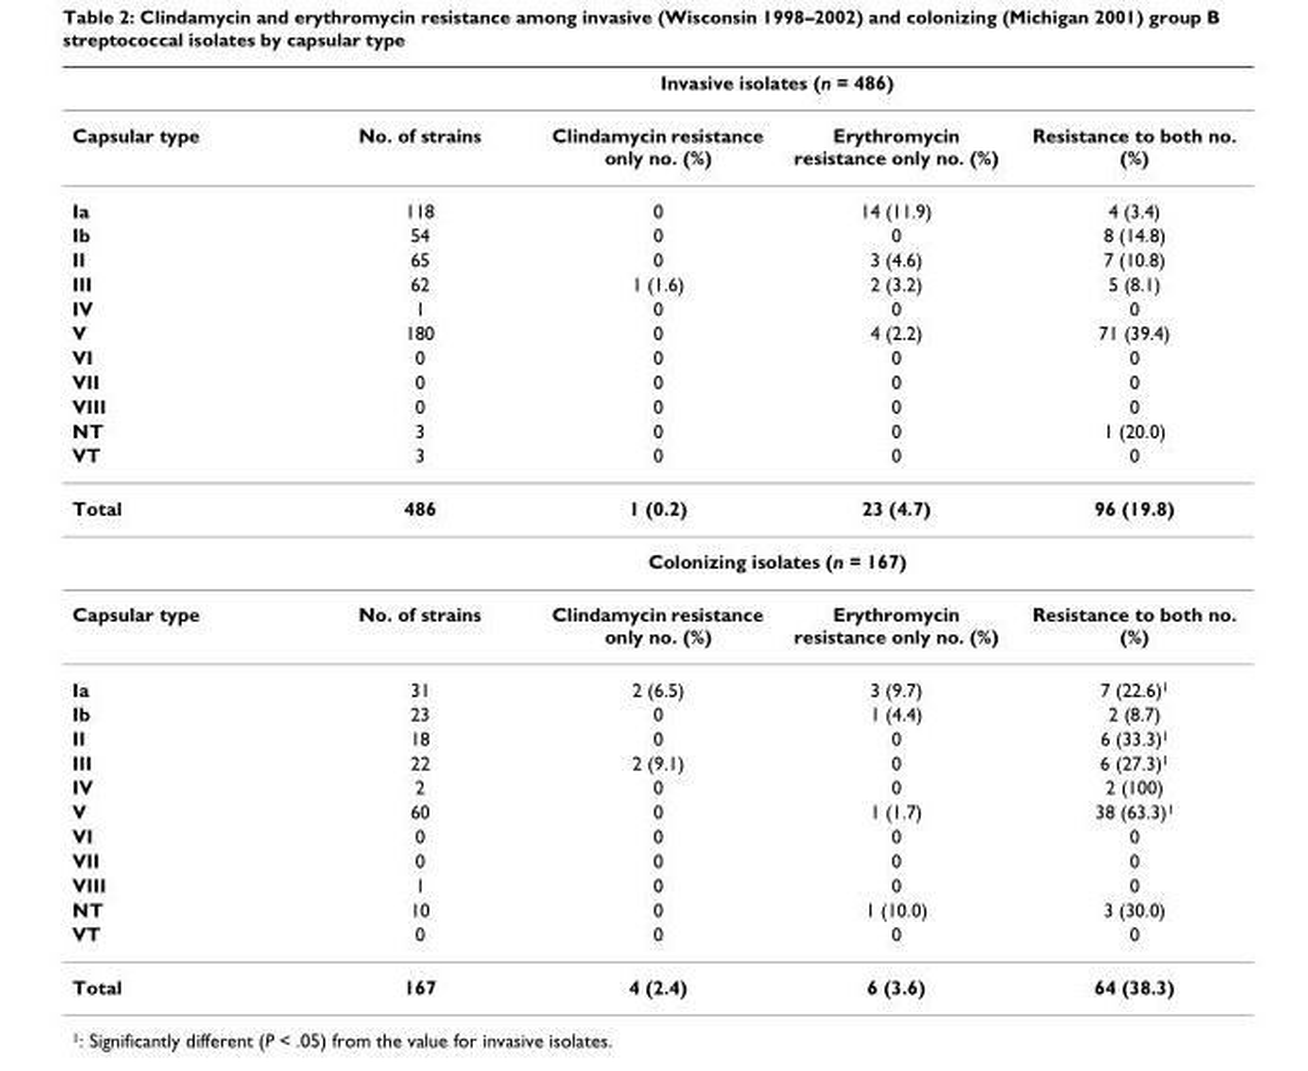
<table><thead><tr><td rowspan="2">Capsular type</td><td colspan="4">Invasive isolates (n = 486)</td></tr><tr><td>No. of strains</td><td>Clindamycin resistance only no. (%)</td><td>Erythromycin resistance only no. (%)</td><td>Resistance to both no. (%)</td></tr></thead><tbody><tr><td>Ia</td><td>118</td><td>0</td><td>14 (11.9)</td><td>4 (3.4)</td></tr><tr><td>Ib</td><td>54</td><td>0</td><td>0</td><td>8 (14.8)</td></tr><tr><td>II</td><td>65</td><td>0</td><td>3 (4.6)</td><td>7 (10.8)</td></tr><tr><td>III</td><td>62</td><td>1 (1.6)</td><td>2 (3.2)</td><td>5 (8.1)</td></tr><tr><td>IV</td><td>1</td><td>0</td><td>0</td><td>0</td></tr><tr><td>V</td><td>180</td><td>0</td><td>4 (2.2)</td><td>71 (39.4)</td></tr><tr><td>VI</td><td>0</td><td>0</td><td>0</td><td>0</td></tr><tr><td>VII</td><td>0</td><td>0</td><td>0</td><td>0</td></tr><tr><td>VIII</td><td>0</td><td>0</td><td>0</td><td>0</td></tr><tr><td>NT</td><td>3</td><td>0</td><td>0</td><td>1 (20.0)</td></tr><tr><td>VT</td><td>3</td><td>0</td><td>0</td><td>0</td></tr><tr><td rowspan="2">Total</td><td>486</td><td>1 (0.2)</td><td>23 (4.7)</td><td>96 (19.8)</td></tr><tr><td colspan="4">Colonizing isolates (n = 167)</td></tr><tr><td>Capsular type</td><td>No. of strains</td><td>Clindamycin resistance only no. (%)</td><td>Erythromycin resistance only no. (%)</td><td>Resistance to both no. (%)</td></tr><tr><td>Ia</td><td>31</td><td>2 (6.5)</td><td>3 (9.7)</td><td>7 (22.6)<sup>1</sup></td></tr><tr><td>Ib</td><td>23</td><td>0</td><td>1 (4.4)</td><td>2 (8.7)</td></tr><tr><td>II</td><td>18</td><td>0</td><td>0</td><td>6 (33.3)<sup>1</sup></td></tr><tr><td>III</td><td>22</td><td>2 (9.1)</td><td>0</td><td>6 (27.3)<sup>1</sup></td></tr><tr><td>IV</td><td>2</td><td>0</td><td>0</td><td>2 (100)</td></tr><tr><td>V</td><td>60</td><td>0</td><td>1 (1.7)</td><td>38 (63.3)<sup>1</sup></td></tr><tr><td>VI</td><td>0</td><td>0</td><td>0</td><td>0</td></tr><tr><td>VII</td><td>0</td><td>0</td><td>0</td><td>0</td></tr><tr><td>VIII</td><td>1</td><td>0</td><td>0</td><td>0</td></tr><tr><td>NT</td><td>10</td><td>0</td><td>1 (10.0)</td><td>3 (30.0)</td></tr><tr><td>VT</td><td>0</td><td>0</td><td>0</td><td>0</td></tr><tr><td>Total</td><td>167</td><td>4 (2.4)</td><td>6 (3.6)</td><td>64 (38.3)</td></tr></tbody></table>